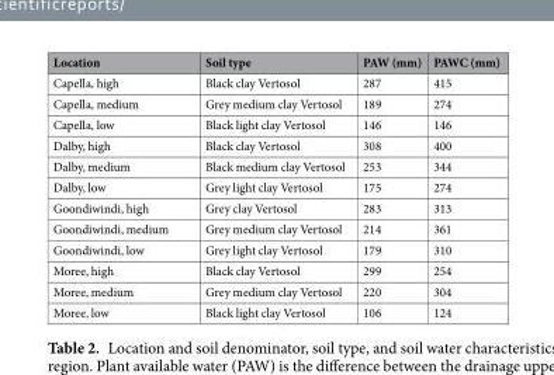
<table><thead><tr><td>Location</td><td>Soil type</td><td>PAW (mm)</td><td>PAWC (mm)</td></tr></thead><tbody><tr><td>Capella, high</td><td>Black clay Vertosol</td><td>287</td><td>415</td></tr><tr><td>Capella, medium</td><td>Grey medium clay Vertosol</td><td>189</td><td>274</td></tr><tr><td>Capella, low</td><td>Black light clay Vertosol</td><td>146</td><td>146</td></tr><tr><td>Dalby, high</td><td>Black clay Vertosol</td><td>308</td><td>400</td></tr><tr><td>Dalby, medium</td><td>Black medium clay Vertosol</td><td>253</td><td>344</td></tr><tr><td>Dalby, low</td><td>Grey light clay Vertosol</td><td>175</td><td>274</td></tr><tr><td>Goondiwindi, high</td><td>Grey clay Vertosol</td><td>283</td><td>313</td></tr><tr><td>Goondiwindi, medium</td><td>Grey medium clay Vertosol</td><td>214</td><td>361</td></tr><tr><td>Goondiwindi, low</td><td>Grey light clay Vertosol</td><td>179</td><td>310</td></tr><tr><td>Moree, high</td><td>Black clay Vertosol</td><td>299</td><td>254</td></tr><tr><td>Moree, medium</td><td>Grey medium clay Vertosol</td><td>220</td><td>304</td></tr><tr><td>Moree, low</td><td>Black light clay Vertosol</td><td>106</td><td>124</td></tr></tbody></table>